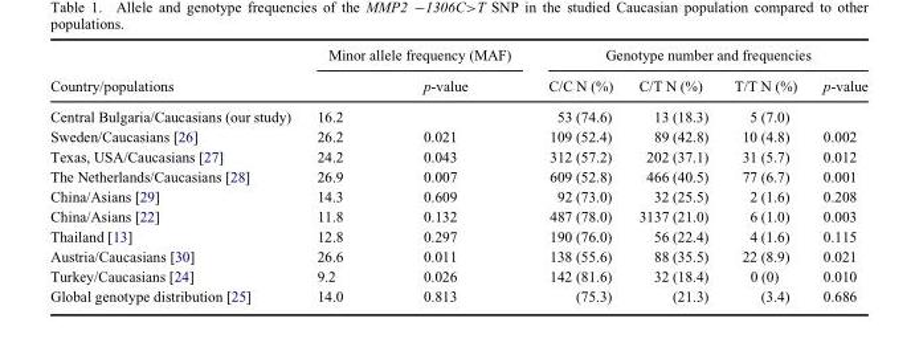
<table><thead><tr><td rowspan="2">Country/populations</td><td colspan="2">Minor allele frequency (MAF)</td><td colspan="4">Genotype number and frequencies</td></tr><tr><td></td><td>p-value</td><td>C/C N (%)</td><td>C/T N (%)</td><td>T/T N (%)</td><td>p-value</td></tr></thead><tbody><tr><td>Central Bulgaria/Caucasians (our study)</td><td>16.2</td><td></td><td>53 (74.6)</td><td>13 (18.3)</td><td>5 (7.0)</td><td></td></tr><tr><td>Sweden/Caucasians [26]</td><td>26.2</td><td>0.021</td><td>109 (52.4)</td><td>89 (42.8)</td><td>10 (4.8)</td><td>0.002</td></tr><tr><td>Texas, USA/Caucasians [27]</td><td>24.2</td><td>0.043</td><td>312 (57.2)</td><td>202 (37.1)</td><td>31 (5.7)</td><td>0.012</td></tr><tr><td>The Netherlands/Caucasians [28]</td><td>26.9</td><td>0.007</td><td>609 (52.8)</td><td>466 (40.5)</td><td>77 (6.7)</td><td>0.001</td></tr><tr><td>China/Asians [29]</td><td>14.3</td><td>0.609</td><td>92 (73.0)</td><td>32 (25.5)</td><td>2 (1.6)</td><td>0.208</td></tr><tr><td>China/Asians [22]</td><td>11.8</td><td>0.132</td><td>487 (78.0)</td><td>3137 (21.0)</td><td>6 (1.0)</td><td>0.003</td></tr><tr><td>Thailand [13]</td><td>12.8</td><td>0.297</td><td>190 (76.0)</td><td>56 (22.4)</td><td>4 (1.6)</td><td>0.115</td></tr><tr><td>Austria/Caucasians [30]</td><td>26.6</td><td>0.011</td><td>138 (55.6)</td><td>88 (35.5)</td><td>22 (8.9)</td><td>0.021</td></tr><tr><td>Turkey/Caucasians [24]</td><td>9.2</td><td>0.026</td><td>142 (81.6)</td><td>32 (18.4)</td><td>0 (0)</td><td>0.010</td></tr><tr><td>Global genotype distribution [25]</td><td>14.0</td><td>0.813</td><td>(75.3)</td><td>(21.3)</td><td>(3.4)</td><td>0.686</td></tr></tbody></table>